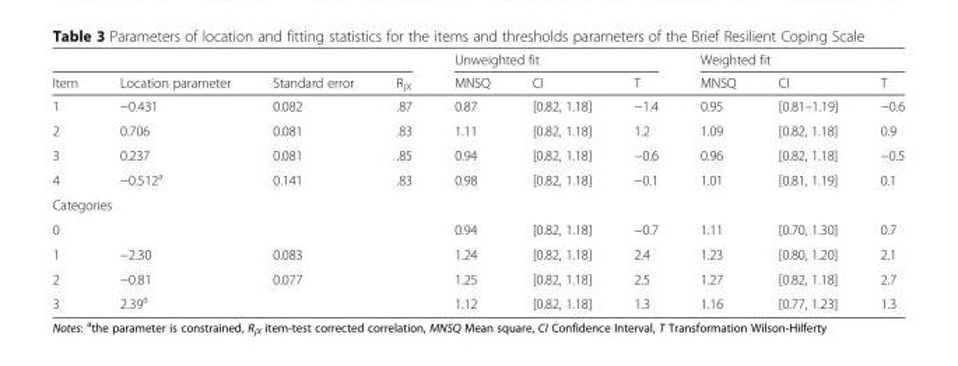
<table><thead><tr><td rowspan="2">Item</td><td rowspan="2">Location parameter</td><td rowspan="2">Standard error</td><td rowspan="2">R<sub>jX</sub></td><td colspan="3">Unweighted fit</td><td colspan="3">Weighted fit</td></tr><tr><td>MNSQ</td><td>CI</td><td>T</td><td>MNSQ</td><td>CI</td><td>T</td></tr></thead><tbody><tr><td>1</td><td>−0.431</td><td>0.082</td><td>.87</td><td>0.87</td><td>[0.82, 1.18]</td><td>−1.4</td><td>0.95</td><td>[0.81–1.19]</td><td>−0.6</td></tr><tr><td>2</td><td>0.706</td><td>0.081</td><td>.83</td><td>1.11</td><td>[0.82, 1.18]</td><td>1.2</td><td>1.09</td><td>[0.82, 1.18]</td><td>0.9</td></tr><tr><td>3</td><td>0.237</td><td>0.081</td><td>.85</td><td>0.94</td><td>[0.82, 1.18]</td><td>−0.6</td><td>0.96</td><td>[0.82, 1.18]</td><td>−0.5</td></tr><tr><td>4</td><td>−0.512<sup>a</sup></td><td>0.141</td><td>.83</td><td>0.98</td><td>[0.82, 1.18]</td><td>−0.1</td><td>1.01</td><td>[0.81, 1.19]</td><td>0.1</td></tr><tr><td colspan="10">Categories</td></tr><tr><td>0</td><td></td><td></td><td></td><td>0.94</td><td>[0.82, 1.18]</td><td>−0.7</td><td>1.11</td><td>[0.70, 1.30]</td><td>0.7</td></tr><tr><td>1</td><td>−2.30</td><td>0.083</td><td></td><td>1.24</td><td>[0.82, 1.18]</td><td>2.4</td><td>1.23</td><td>[0.80, 1.20]</td><td>2.1</td></tr><tr><td>2</td><td>−0.81</td><td>0.077</td><td></td><td>1.25</td><td>[0.82, 1.18]</td><td>2.5</td><td>1.27</td><td>[0.82, 1.18]</td><td>2.7</td></tr><tr><td>3</td><td>2.39<sup>a</sup></td><td></td><td></td><td>1.12</td><td>[0.82, 1.18]</td><td>1.3</td><td>1.16</td><td>[0.77, 1.23]</td><td>1.3</td></tr></tbody></table>